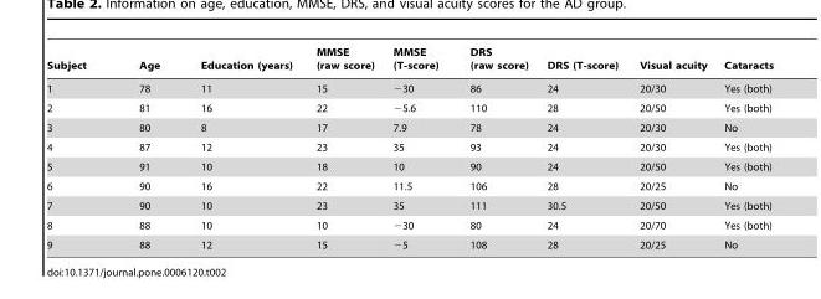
<table><thead><tr><td>Subject</td><td>Age</td><td>Education (years)</td><td>MMSE (raw score)</td><td>MMSE (T-score)</td><td>DRS (raw score)</td><td>DRS (T-score)</td><td>Visual acuity</td><td>Cataracts</td></tr></thead><tbody><tr><td>1</td><td>78</td><td>11</td><td>15</td><td>−30</td><td>86</td><td>24</td><td>20/30</td><td>Yes (both)</td></tr><tr><td>2</td><td>81</td><td>16</td><td>22</td><td>−5.6</td><td>110</td><td>28</td><td>20/50</td><td>Yes (both)</td></tr><tr><td>3</td><td>80</td><td>8</td><td>17</td><td>7.9</td><td>78</td><td>24</td><td>20/30</td><td>No</td></tr><tr><td>4</td><td>87</td><td>12</td><td>23</td><td>35</td><td>93</td><td>24</td><td>20/30</td><td>Yes (both)</td></tr><tr><td>5</td><td>91</td><td>10</td><td>18</td><td>10</td><td>90</td><td>24</td><td>20/50</td><td>Yes (both)</td></tr><tr><td>6</td><td>90</td><td>16</td><td>22</td><td>11.5</td><td>106</td><td>28</td><td>20/25</td><td>No</td></tr><tr><td>7</td><td>90</td><td>10</td><td>23</td><td>35</td><td>111</td><td>30.5</td><td>20/50</td><td>Yes (both)</td></tr><tr><td>8</td><td>88</td><td>10</td><td>10</td><td>−30</td><td>80</td><td>24</td><td>20/70</td><td>Yes (both)</td></tr><tr><td>9</td><td>88</td><td>12</td><td>15</td><td>−5</td><td>108</td><td>28</td><td>20/25</td><td>No</td></tr></tbody></table>